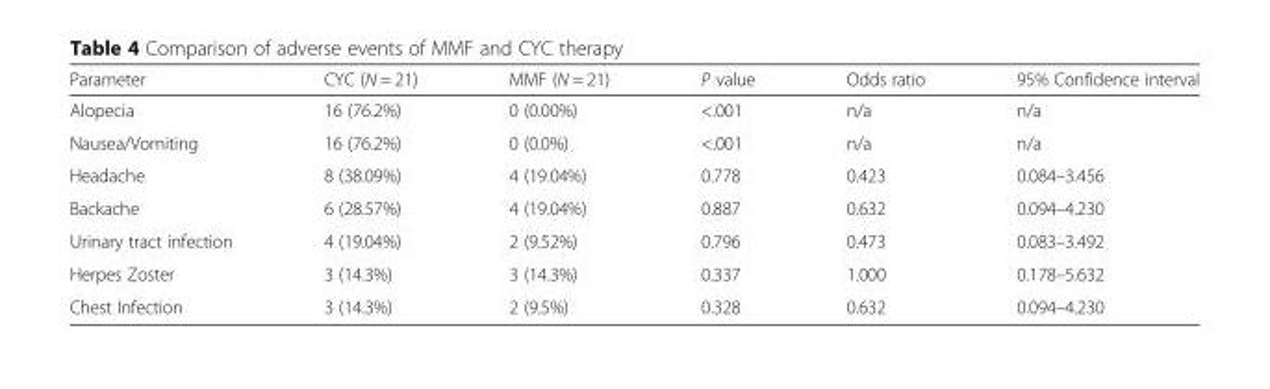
<table><thead><tr><td>Parameter</td><td>CYC (N = 21)</td><td>MMF (N = 21)</td><td>P value</td><td>Odds ratio</td><td>95% Confidence interval</td></tr></thead><tbody><tr><td>Alopecia</td><td>16 (76.2%)</td><td>0 (0.00%)</td><td>&lt;.001</td><td>n/a</td><td>n/a</td></tr><tr><td>Nausea/Vomiting</td><td>16 (76.2%)</td><td>0 (0.0%)</td><td>&lt;.001</td><td>n/a</td><td>n/a</td></tr><tr><td>Headache</td><td>8 (38.09%)</td><td>4 (19.04%)</td><td>0.778</td><td>0.423</td><td>0.084–3.456</td></tr><tr><td>Backache</td><td>6 (28.57%)</td><td>4 (19.04%)</td><td>0.887</td><td>0.632</td><td>0.094–4.230</td></tr><tr><td>Urinary tract infection</td><td>4 (19.04%)</td><td>2 (9.52%)</td><td>0.796</td><td>0.473</td><td>0.083–3.492</td></tr><tr><td>Herpes Zoster</td><td>3 (14.3%)</td><td>3 (14.3%)</td><td>0.337</td><td>1.000</td><td>0.178–5.632</td></tr><tr><td>Chest Infection</td><td>3 (14.3%)</td><td>2 (9.5%)</td><td>0.328</td><td>0.632</td><td>0.094–4.230</td></tr></tbody></table>